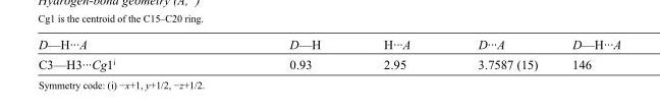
<table><tbody><tr><td>D—H···A</td><td>D—H</td><td>H···A</td><td>D···A</td><td>D—H···A</td></tr><tr><td>C3—H3···Cg1<sup>i</sup></td><td>0.93</td><td>2.95</td><td>3.7587 (15)</td><td>146</td></tr></tbody></table>